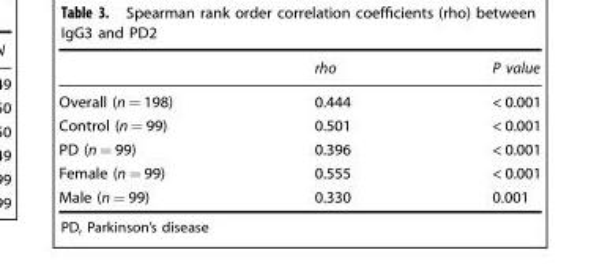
<table><thead><tr><td></td><td>rho</td><td>P value</td></tr></thead><tbody><tr><td>Overall (n = 198)</td><td>0.444</td><td>&lt; 0.001</td></tr><tr><td>Control (n = 99)</td><td>0.501</td><td>&lt; 0.001</td></tr><tr><td>PD (n = 99)</td><td>0.396</td><td>&lt; 0.001</td></tr><tr><td>Female (n = 99)</td><td>0.555</td><td>&lt; 0.001</td></tr><tr><td>Male (n = 99)</td><td>0.330</td><td>0.001</td></tr></tbody></table>